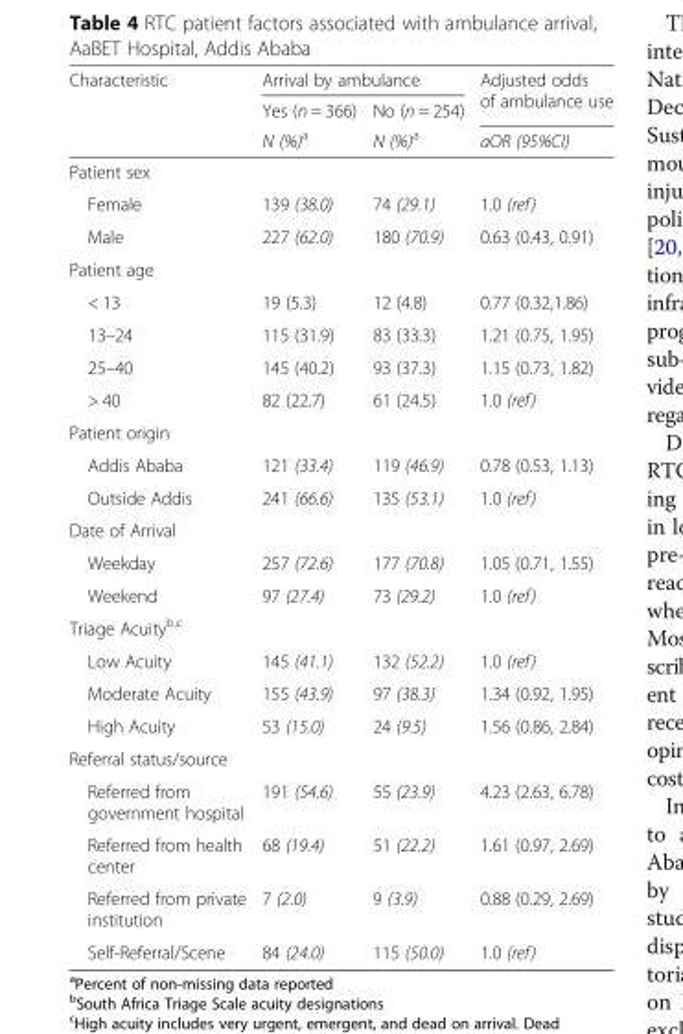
<table><thead><tr><td rowspan="3">Characteristic</td><td colspan="2">Arrival by ambulance</td><td rowspan="3">Adjusted odds of ambulance use aOR (95%CI)</td></tr><tr><td rowspan="2">Yes (n = 366) N (%)<sup>a</sup></td><td rowspan="2">No (n = 254) N (%)<sup>a</sup></td></tr><tr></tr></thead><tbody><tr><td colspan="4">Patient sex</td></tr><tr><td>Female</td><td>139 (38.0)</td><td>74 (29.1)</td><td>1.0 (ref)</td></tr><tr><td>Male</td><td>227 (62.0)</td><td>180 (70.9)</td><td>0.63 (0.43, 0.91)</td></tr><tr><td colspan="4">Patient age</td></tr><tr><td>&lt; 13</td><td>19 (5.3)</td><td>12 (4.8)</td><td>0.77 (0.32,1.86)</td></tr><tr><td>13–24</td><td>115 (31.9)</td><td>83 (33.3)</td><td>1.21 (0.75, 1.95)</td></tr><tr><td>25–40</td><td>145 (40.2)</td><td>93 (37.3)</td><td>1.15 (0.73, 1.82)</td></tr><tr><td>&gt; 40</td><td>82 (22.7)</td><td>61 (24.5)</td><td>1.0 (ref)</td></tr><tr><td colspan="4">Patient origin</td></tr><tr><td>Addis Ababa</td><td>121 (33.4)</td><td>119 (46.9)</td><td>0.78 (0.53, 1.13)</td></tr><tr><td>Outside Addis</td><td>241 (66.6)</td><td>135 (53.1)</td><td>1.0 (ref)</td></tr><tr><td colspan="4">Date of Arrival</td></tr><tr><td>Weekday</td><td>257 (72.6)</td><td>177 (70.8)</td><td>1.05 (0.71, 1.55)</td></tr><tr><td>Weekend</td><td>97 (27.4)</td><td>73 (29.2)</td><td>1.0 (ref)</td></tr><tr><td colspan="4">Triage Acuity<sup>b,c</sup></td></tr><tr><td>Low Acuity</td><td>145 (41.1)</td><td>132 (52.2)</td><td>1.0 (ref)</td></tr><tr><td>Moderate Acuity</td><td>155 (43.9)</td><td>97 (38.3)</td><td>1.34 (0.92, 1.95)</td></tr><tr><td>High Acuity</td><td>53 (15.0)</td><td>24 (9.5)</td><td>1.56 (0.86, 2.84)</td></tr><tr><td colspan="4">Referral status/source</td></tr><tr><td>Referred from government hospital</td><td>191 (54.6)</td><td>55 (23.9)</td><td>4.23 (2.63, 6.78)</td></tr><tr><td>Referred from health center</td><td>68 (19.4)</td><td>51 (22.2)</td><td>1.61 (0.97, 2.69)</td></tr><tr><td>Referred from private institution</td><td>7 (2.0)</td><td>9 (3.9)</td><td>0.88 (0.29, 2.69)</td></tr><tr><td>Self-Referral/Scene</td><td>84 (24.0)</td><td>115 (50.0)</td><td>1.0 (ref)</td></tr></tbody></table>